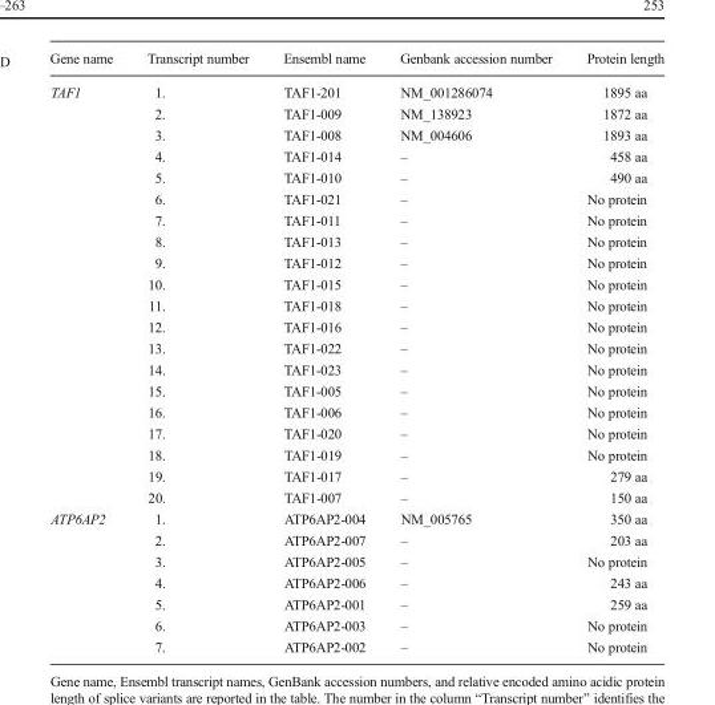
<table><thead><tr><td>Gene name</td><td>Transcript number</td><td>Ensembl name</td><td>Genbank accession number</td><td>Protein length</td></tr></thead><tbody><tr><td rowspan="20">TAF1</td><td>1.</td><td>TAF1-201</td><td>NM_001286074</td><td>1895 aa</td></tr><tr><td>2.</td><td>TAF1-009</td><td>NM_138923</td><td>1872 aa</td></tr><tr><td>3.</td><td>TAF1-008</td><td>NM_004606</td><td>1893 aa</td></tr><tr><td>4.</td><td>TAF1-014</td><td>–</td><td>458 aa</td></tr><tr><td>5.</td><td>TAF1-010</td><td>–</td><td>490 aa</td></tr><tr><td>6.</td><td>TAF1-021</td><td>–</td><td>No protein</td></tr><tr><td>7.</td><td>TAF1-011</td><td>–</td><td>No protein</td></tr><tr><td>8.</td><td>TAF1-013</td><td>–</td><td>No protein</td></tr><tr><td>9.</td><td>TAF1-012</td><td>–</td><td>No protein</td></tr><tr><td>10.</td><td>TAF1-015</td><td>–</td><td>No protein</td></tr><tr><td>11.</td><td>TAF1-018</td><td>–</td><td>No protein</td></tr><tr><td>12.</td><td>TAF1-016</td><td>–</td><td>No protein</td></tr><tr><td>13.</td><td>TAF1-022</td><td>–</td><td>No protein</td></tr><tr><td>14.</td><td>TAF1-023</td><td>–</td><td>No protein</td></tr><tr><td>15.</td><td>TAF1-005</td><td>–</td><td>No protein</td></tr><tr><td>16.</td><td>TAF1-006</td><td>–</td><td>No protein</td></tr><tr><td>17.</td><td>TAF1-020</td><td>–</td><td>No protein</td></tr><tr><td>18.</td><td>TAF1-019</td><td>–</td><td>No protein</td></tr><tr><td>19.</td><td>TAF1-017</td><td>–</td><td>279 aa</td></tr><tr><td>20.</td><td>TAF1-007</td><td>–</td><td>150 aa</td></tr><tr><td rowspan="7">ATP6AP2</td><td>1.</td><td>ATP6AP2-004</td><td>NM_005765</td><td>350 aa</td></tr><tr><td>2.</td><td>ATP6AP2-007</td><td>–</td><td>203 aa</td></tr><tr><td>3.</td><td>ATP6AP2-005</td><td>–</td><td>No protein</td></tr><tr><td>4.</td><td>ATP6AP2-006</td><td>–</td><td>243 aa</td></tr><tr><td>5.</td><td>ATP6AP2-001</td><td>–</td><td>259 aa</td></tr><tr><td>6.</td><td>ATP6AP2-003</td><td>–</td><td>No protein</td></tr><tr><td>7.</td><td>ATP6AP2-002</td><td>–</td><td>No protein</td></tr></tbody></table>